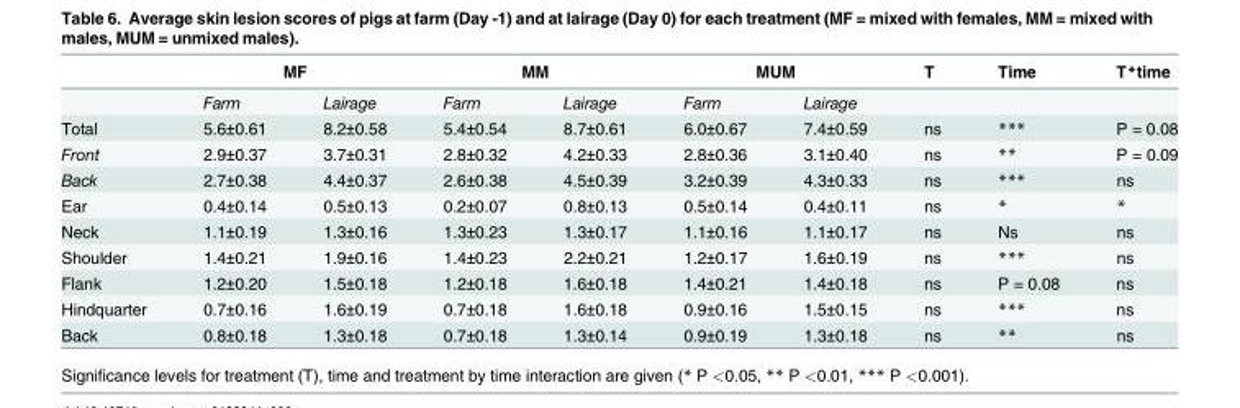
<table><thead><tr><td rowspan="2"></td><td colspan="2">MF</td><td colspan="2">MM</td><td colspan="2">MUM</td><td rowspan="2">T</td><td rowspan="2">Time</td><td rowspan="2">T*time</td></tr><tr><td>Farm</td><td>Lairage</td><td>Farm</td><td>Lairage</td><td>Farm</td><td>Lairage</td></tr></thead><tbody><tr><td>Total</td><td>5.6±0.61</td><td>8.2±0.58</td><td>5.4±0.54</td><td>8.7±0.61</td><td>6.0±0.67</td><td>7.4±0.59</td><td>ns</td><td>***</td><td>P = 0.08</td></tr><tr><td>Front</td><td>2.9±0.37</td><td>3.7±0.31</td><td>2.8±0.32</td><td>4.2±0.33</td><td>2.8±0.36</td><td>3.1±0.40</td><td>ns</td><td>**</td><td>P = 0.09</td></tr><tr><td>Back</td><td>2.7±0.38</td><td>4.4±0.37</td><td>2.6±0.38</td><td>4.5±0.39</td><td>3.2±0.39</td><td>4.3±0.33</td><td>ns</td><td>***</td><td>ns</td></tr><tr><td>Ear</td><td>0.4±0.14</td><td>0.5±0.13</td><td>0.2±0.07</td><td>0.8±0.13</td><td>0.5±0.14</td><td>0.4±0.11</td><td>ns</td><td>*</td><td>*</td></tr><tr><td>Neck</td><td>1.1±0.19</td><td>1.3±0.16</td><td>1.3±0.23</td><td>1.3±0.17</td><td>1.1±0.16</td><td>1.1±0.17</td><td>ns</td><td>Ns</td><td>ns</td></tr><tr><td>Shoulder</td><td>1.4±0.21</td><td>1.9±0.16</td><td>1.4±0.23</td><td>2.2±0.21</td><td>1.2±0.17</td><td>1.6±0.19</td><td>ns</td><td>***</td><td>ns</td></tr><tr><td>Flank</td><td>1.2±0.20</td><td>1.5±0.18</td><td>1.2±0.18</td><td>1.6±0.18</td><td>1.4±0.21</td><td>1.4±0.18</td><td>ns</td><td>P = 0.08</td><td>ns</td></tr><tr><td>Hindquarter</td><td>0.7±0.16</td><td>1.6±0.19</td><td>0.7±0.18</td><td>1.6±0.18</td><td>0.9±0.16</td><td>1.5±0.15</td><td>ns</td><td>***</td><td>ns</td></tr><tr><td>Back</td><td>0.8±0.18</td><td>1.3±0.18</td><td>0.7±0.18</td><td>1.3±0.14</td><td>0.9±0.19</td><td>1.3±0.18</td><td>ns</td><td>**</td><td>ns</td></tr></tbody></table>